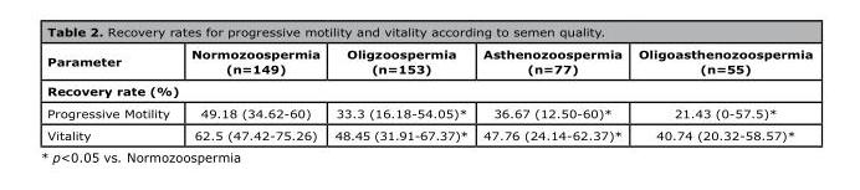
<table><thead><tr><td>Parameter</td><td>Normozoospermia (n=149)</td><td>Oligzoospermia (n=153)</td><td>Asthenozoospermia (n=77)</td><td>Oligoasthenozoospermia (n=55)</td></tr></thead><tbody><tr><td colspan="5">Recovery rate (%)</td></tr><tr><td>Progressive Motility</td><td>49.18 (34.62-60)</td><td>33.3 (16.18-54.05)*</td><td>36.67 (12.50-60)*</td><td>21.43 (0-57.5)*</td></tr><tr><td>Vitality</td><td>62.5 (47.42-75.26)</td><td>48.45 (31.91-67.37)*</td><td>47.76 (24.14-62.37)*</td><td>40.74 (20.32-58.57)*</td></tr></tbody></table>